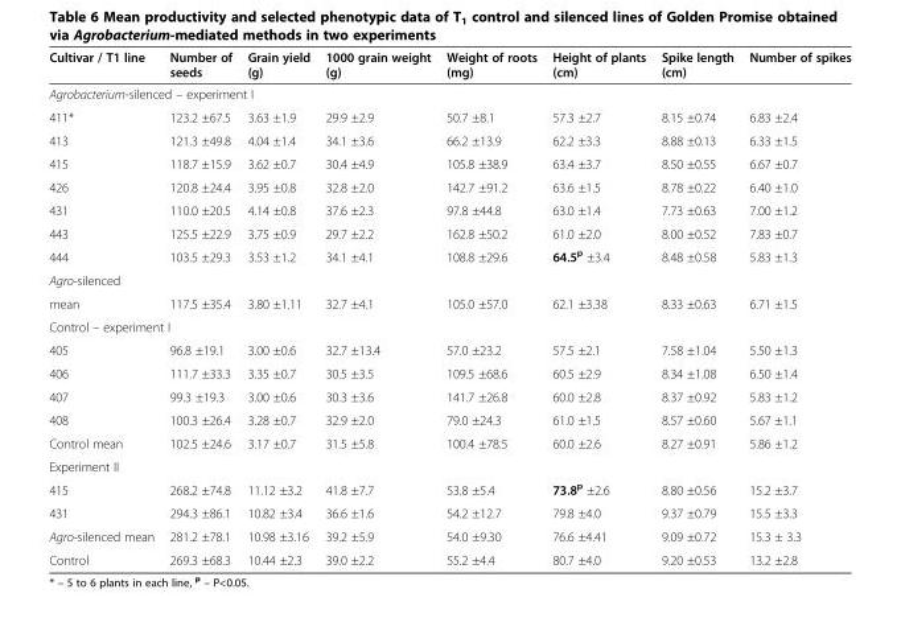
<table><thead><tr><td>Cultivar / T1 line</td><td>Number of seeds</td><td>Grain yield (g)</td><td>1000 grain weight (g)</td><td>Weight of roots (mg)</td><td>Height of plants (cm)</td><td>Spike length (cm)</td><td>Number of spikes</td></tr></thead><tbody><tr><td colspan="8">Agrobacterium-silenced – experiment I</td></tr><tr><td>411*</td><td>123.2 ±67.5</td><td>3.63 ±1.9</td><td>29.9 ±2.9</td><td>50.7 ±8.1</td><td>57.3 ±2.7</td><td>8.15 ±0.74</td><td>6.83 ±2.4</td></tr><tr><td>413</td><td>121.3 ±49.8</td><td>4.04 ±1.4</td><td>34.1 ±3.6</td><td>66.2 ±13.9</td><td>62.2 ±3.3</td><td>8.88 ±0.13</td><td>6.33 ±1.5</td></tr><tr><td>415</td><td>118.7 ±15.9</td><td>3.62 ±0.7</td><td>30.4 ±4.9</td><td>105.8 ±38.9</td><td>63.4 ±3.7</td><td>8.50 ±0.55</td><td>6.67 ±0.7</td></tr><tr><td>426</td><td>120.8 ±24.4</td><td>3.95 ±0.8</td><td>32.8 ±2.0</td><td>142.7 ±91.2</td><td>63.6 ±1.5</td><td>8.78 ±0.22</td><td>6.40 ±1.0</td></tr><tr><td>431</td><td>110.0 ±20.5</td><td>4.14 ±0.8</td><td>37.6 ±2.3</td><td>97.8 ±44.8</td><td>63.0 ±1.4</td><td>7.73 ±0.63</td><td>7.00 ±1.2</td></tr><tr><td>443</td><td>125.5 ±22.9</td><td>3.75 ±0.9</td><td>29.7 ±2.2</td><td>162.8 ±50.2</td><td>61.0 ±2.0</td><td>8.00 ±0.52</td><td>7.83 ±0.7</td></tr><tr><td>444</td><td>103.5 ±29.3</td><td>3.53 ±1.2</td><td>34.1 ±4.1</td><td>108.8 ±29.6</td><td>64.5<sup>p</sup> ±3.4</td><td>8.48 ±0.58</td><td>5.83 ±1.3</td></tr><tr><td colspan="8">Agro-silenced</td></tr><tr><td>mean</td><td>117.5 ±35.4</td><td>3.80 ±1.11</td><td>32.7 ±4.1</td><td>105.0 ±57.0</td><td>62.1 ±3.38</td><td>8.33 ±0.63</td><td>6.71 ±1.5</td></tr><tr><td colspan="8">Control – experiment I</td></tr><tr><td>405</td><td>96.8 ±19.1</td><td>3.00 ±0.6</td><td>32.7 ±13.4</td><td>57.0 ±23.2</td><td>57.5 ±2.1</td><td>7.58 ±1.04</td><td>5.50 ±1.3</td></tr><tr><td>406</td><td>111.7 ±33.3</td><td>3.35 ±0.7</td><td>30.5 ±3.5</td><td>109.5 ±68.6</td><td>60.5 ±2.9</td><td>8.34 ±1.08</td><td>6.50 ±1.4</td></tr><tr><td>407</td><td>99.3 ±19.3</td><td>3.00 ±0.6</td><td>30.3 ±3.6</td><td>141.7 ±26.8</td><td>60.0 ±2.8</td><td>8.37 ±0.92</td><td>5.83 ±1.2</td></tr><tr><td>408</td><td>100.3 ±26.4</td><td>3.28 ±0.7</td><td>32.9 ±2.0</td><td>79.0 ±24.3</td><td>61.0 ±1.5</td><td>8.57 ±0.60</td><td>5.67 ±1.1</td></tr><tr><td>Control mean</td><td>102.5 ±24.6</td><td>3.17 ±0.7</td><td>31.5 ±5.8</td><td>100.4 ±78.5</td><td>60.0 ±2.6</td><td>8.27 ±0.91</td><td>5.86 ±1.2</td></tr><tr><td colspan="8">Experiment II</td></tr><tr><td>415</td><td>268.2 ±74.8</td><td>11.12 ±3.2</td><td>41.8 ±7.7</td><td>53.8 ±5.4</td><td>73.8<sup>p</sup> ±2.6</td><td>8.80 ±0.56</td><td>15.2 ±3.7</td></tr><tr><td>431</td><td>294.3 ±86.1</td><td>10.82 ±3.4</td><td>36.6 ±1.6</td><td>54.2 ±12.7</td><td>79.8 ±4.0</td><td>9.37 ±0.79</td><td>15.5 ±3.3</td></tr><tr><td>Agro-silenced mean</td><td>281.2 ±78.1</td><td>10.98 ±3.16</td><td>39.2 ±5.9</td><td>54.0 ±9.30</td><td>76.6 ±4.41</td><td>9.09 ±0.72</td><td>15.3 ± 3.3</td></tr><tr><td>Control</td><td>269.3 ±68.3</td><td>10.44 ±2.3</td><td>39.0 ±2.2</td><td>55.2 ±4.4</td><td>80.7 ±4.0</td><td>9.20 ±0.53</td><td>13.2 ±2.8</td></tr></tbody></table>